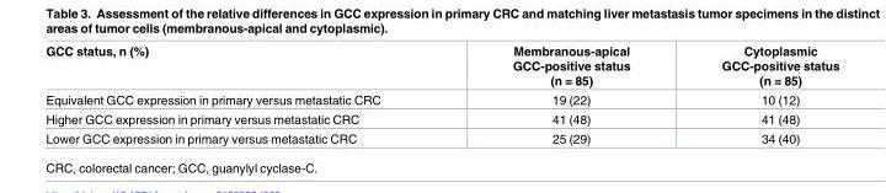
<table><thead><tr><td>GCC status, n (%)</td><td>Membranous-apical GCC-positive status (n = 85)</td><td>Cytoplasmic GCC-positive status (n = 85)</td></tr></thead><tbody><tr><td>Equivalent GCC expression in primary versus metastatic CRC</td><td>19 (22)</td><td>10 (12)</td></tr><tr><td>Higher GCC expression in primary versus metastatic CRC</td><td>41 (48)</td><td>41 (48)</td></tr><tr><td>Lower GCC expression in primary versus metastatic CRC</td><td>25 (29)</td><td>34 (40)</td></tr></tbody></table>